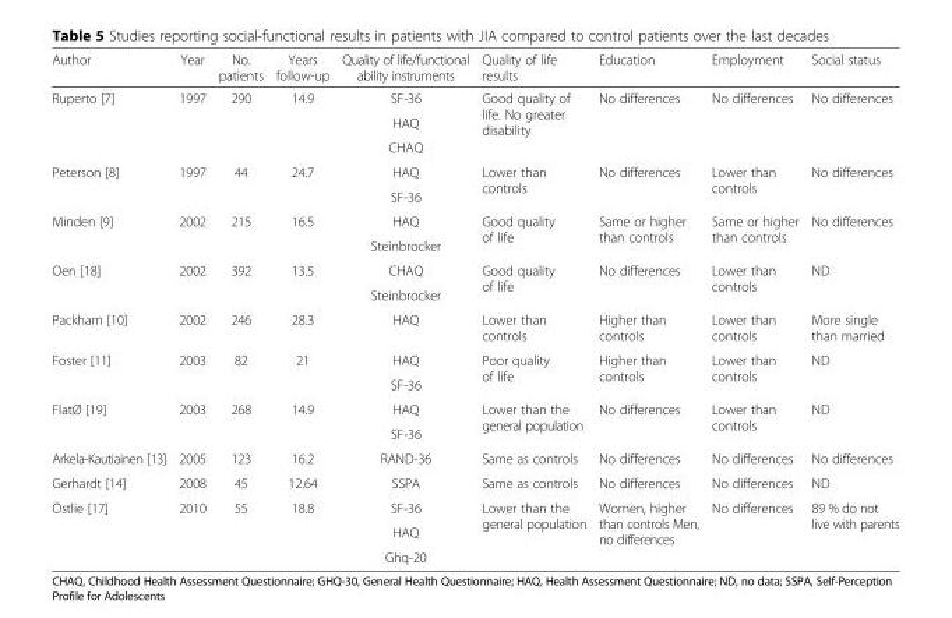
<table><thead><tr><td>Author</td><td>Year</td><td>No. patients</td><td>Years follow-up</td><td>Quality of life/functional ability instruments</td><td>Quality of life results</td><td>Education</td><td>Employment</td><td>Social status</td></tr></thead><tbody><tr><td rowspan="3">Ruperto [7]</td><td rowspan="3">1997</td><td rowspan="3">290</td><td rowspan="3">14.9</td><td>SF-36</td><td rowspan="3">Good quality of life. No greater disability</td><td rowspan="3">No differences</td><td rowspan="3">No differences</td><td rowspan="3">No differences</td></tr><tr><td>HAQ</td></tr><tr><td>CHAQ</td></tr><tr><td rowspan="2">Peterson [8]</td><td rowspan="2">1997</td><td rowspan="2">44</td><td rowspan="2">24.7</td><td>HAQ</td><td rowspan="2">Lower than controls</td><td rowspan="2">No differences</td><td rowspan="2">Lower than controls</td><td rowspan="2">No differences</td></tr><tr><td>SF-36</td></tr><tr><td rowspan="2">Minden [9]</td><td rowspan="2">2002</td><td rowspan="2">215</td><td rowspan="2">16.5</td><td>HAQ</td><td rowspan="2">Good quality of life</td><td rowspan="2">Same or higher than controls</td><td rowspan="2">Same or higher than controls</td><td rowspan="2">No differences</td></tr><tr><td>Steinbrocker</td></tr><tr><td rowspan="2">Oen [18]</td><td rowspan="2">2002</td><td rowspan="2">392</td><td rowspan="2">13.5</td><td>CHAQ</td><td rowspan="2">Good quality of life</td><td rowspan="2">No differences</td><td rowspan="2">Lower than controls</td><td rowspan="2">ND</td></tr><tr><td>Steinbrocker</td></tr><tr><td>Packham [10]</td><td>2002</td><td>246</td><td>28.3</td><td>HAQ</td><td>Lower than controls</td><td>Higher than controls</td><td>Lower than controls</td><td>More single than married</td></tr><tr><td rowspan="2">Foster [11]</td><td rowspan="2">2003</td><td rowspan="2">82</td><td rowspan="2">21</td><td>HAQ</td><td rowspan="2">Poor quality of life</td><td rowspan="2">Higher than controls</td><td rowspan="2">Lower than controls</td><td rowspan="2">ND</td></tr><tr><td>SF-36</td></tr><tr><td rowspan="2">FlatØ [19]</td><td rowspan="2">2003</td><td rowspan="2">268</td><td rowspan="2">14.9</td><td>HAQ</td><td rowspan="2">Lower than the general population</td><td rowspan="2">No differences</td><td rowspan="2">Lower than controls</td><td rowspan="2">ND</td></tr><tr><td>SF-36</td></tr><tr><td>Arkela-Kautiainen [13]</td><td>2005</td><td>123</td><td>16.2</td><td>RAND-36</td><td>Same as controls</td><td>No differences</td><td>No differences</td><td>No differences</td></tr><tr><td>Gerhardt [14]</td><td>2008</td><td>45</td><td>12.64</td><td>SSPA</td><td>Same as controls</td><td>No differences</td><td>No differences</td><td>ND</td></tr><tr><td rowspan="3">Östlie [17]</td><td rowspan="3">2010</td><td rowspan="3">55</td><td rowspan="3">18.8</td><td>SF-36</td><td rowspan="3">Lower than the general population</td><td rowspan="3">Women, higher than controls Men, no differences</td><td rowspan="3">No differences</td><td rowspan="3">89 % do not live with parents</td></tr><tr><td>HAQ</td></tr><tr><td>Ghq-20</td></tr></tbody></table>